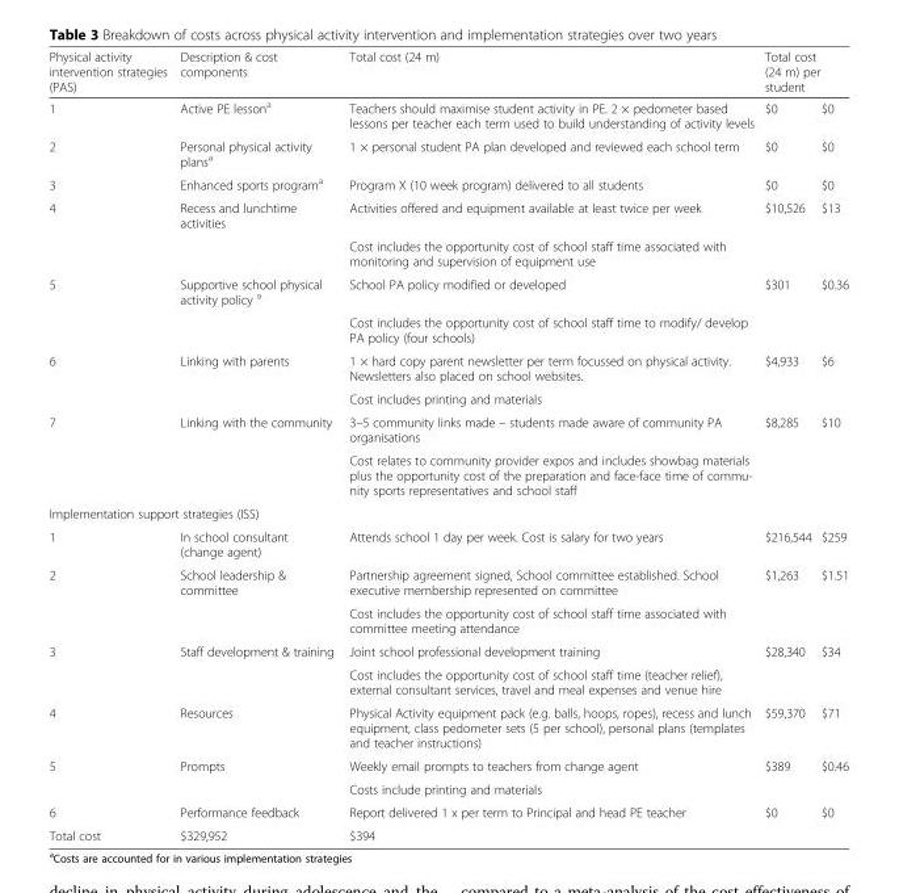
<table><thead><tr><td rowspan="2">Physical activity intervention strategies (PAS) 1</td><td rowspan="2">Description &amp; cost components Active PE lesson<sup>a</sup></td><td rowspan="2">Total cost (24 m) Teachers should maximise student activity in PE. 2 × pedometer based lessons per teacher each term used to build understanding of activity levels</td><td colspan="2">Total cost (24 m) per student</td></tr><tr><td>$0</td><td>$0</td></tr></thead><tbody><tr><td>2</td><td>Personal physical activity plans<sup>a</sup></td><td>1 × personal student PA plan developed and reviewed each school term</td><td>$0</td><td>$0</td></tr><tr><td>3</td><td>Enhanced sports program<sup>a</sup></td><td>Program X (10 week program) delivered to all students</td><td>$0</td><td>$0</td></tr><tr><td rowspan="2">4</td><td>Recess and lunchtime activities</td><td>Activities offered and equipment available at least twice per week</td><td>$10,526</td><td>$13</td></tr><tr><td></td><td>Cost includes the opportunity cost of school staff time associated with monitoring and supervision of equipment use</td><td></td><td></td></tr><tr><td rowspan="2">5</td><td>Supportive school physical activity policy <sup>a</sup></td><td>School PA policy modified or developed</td><td>$301</td><td>$0.36</td></tr><tr><td></td><td>Cost includes the opportunity cost of school staff time to modify/ develop PA policy (four schools)</td><td></td><td></td></tr><tr><td rowspan="2">6</td><td>Linking with parents</td><td>1 × hard copy parent newsletter per term focussed on physical activity. Newsletters also placed on school websites.</td><td>$4,933</td><td>$6</td></tr><tr><td></td><td>Cost includes printing and materials</td><td></td><td></td></tr><tr><td rowspan="2">7</td><td>Linking with the community</td><td>3–5 community links made – students made aware of community PA organisations</td><td>$8,285</td><td>$10</td></tr><tr><td></td><td>Cost relates to community provider expos and includes showbag materials plus the opportunity cost of the preparation and face-face time of commu- nity sports representatives and school staff</td><td></td><td></td></tr><tr><td colspan="5">Implementation support strategies (ISS)</td></tr><tr><td>1</td><td>In school consultant (change agent)</td><td>Attends school 1 day per week. Cost is salary for two years</td><td>$216,544</td><td>$259</td></tr><tr><td rowspan="2">2</td><td>School leadership &amp; committee</td><td>Partnership agreement signed, School committee established. School executive membership represented on committee</td><td>$1,263</td><td>$1.51</td></tr><tr><td></td><td>Cost includes the opportunity cost of school staff time associated with committee meeting attendance</td><td></td><td></td></tr><tr><td rowspan="2">3</td><td>Staff development &amp; training</td><td>Joint school professional development training</td><td>$28,340</td><td>$34</td></tr><tr><td></td><td>Cost includes the opportunity cost of school staff time (teacher relief), external consultant services, travel and meal expenses and venue hire</td><td></td><td></td></tr><tr><td>4</td><td>Resources</td><td>Physical Activity equipment pack (e.g. balls, hoops, ropes), recess and lunch equipment, class pedometer sets (5 per school), personal plans (templates and teacher instructions)</td><td>$59,370</td><td>$71</td></tr><tr><td rowspan="2">5</td><td>Prompts</td><td>Weekly email prompts to teachers from change agent</td><td>$389</td><td>$0.46</td></tr><tr><td></td><td>Costs include printing and materials</td><td></td><td></td></tr><tr><td>6</td><td>Performance feedback</td><td>Report delivered 1 x per term to Principal and head PE teacher</td><td>$0</td><td>$0</td></tr><tr><td>Total cost</td><td>$329,952</td><td>$394</td><td></td><td></td></tr></tbody></table>